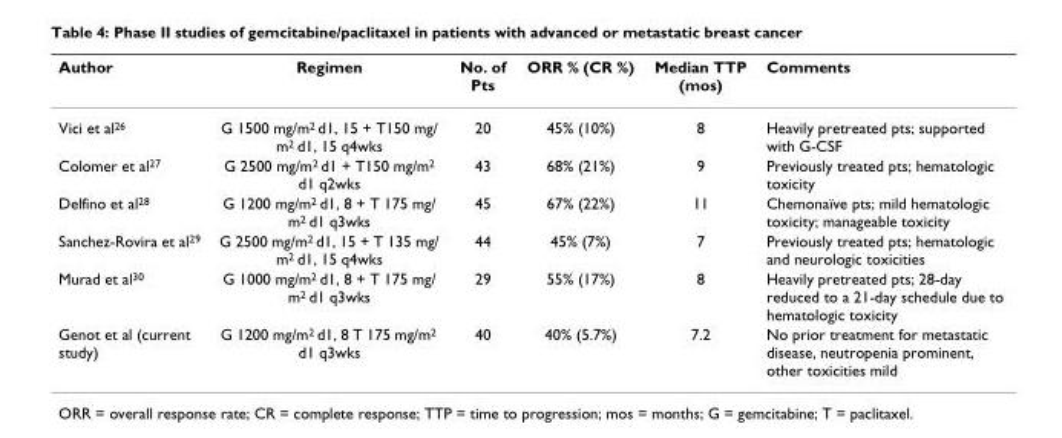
<table><thead><tr><td>Author</td><td>Regimen</td><td>No. of Pts</td><td>ORR % (CR %)</td><td>Median TTP (mos)</td><td>Comments</td></tr></thead><tbody><tr><td>Vici et al26</td><td>G 1500 mg/m2 d1, 15 + T150 mg/ m2 d1, 15 q4wks</td><td>20</td><td>45% (10%)</td><td>8</td><td>Heavily pretreated pts; supported with G-CSF</td></tr><tr><td>Colomer et al27</td><td>G 2500 mg/m2 d1 + T150 mg/m2 d1 q2wks</td><td>43</td><td>68% (21%)</td><td>9</td><td>Previously treated pts; hematologic toxicity</td></tr><tr><td>Delfino et al28</td><td>G 1200 mg/m2 d1, 8 + T 175 mg/ m2 d1 q3wks</td><td>45</td><td>67% (22%)</td><td>11</td><td>Chemonaïve pts; mild hematologic toxicity; manageable toxicity</td></tr><tr><td>Sanchez-Rovira et al29</td><td>G 2500 mg/m2 d1, 15 + T 135 mg/ m2 d1, 15 q4wks</td><td>44</td><td>45% (7%)</td><td>7</td><td>Previously treated pts; hematologic and neurologic toxicities</td></tr><tr><td>Murad et al30</td><td>G 1000 mg/m2 d1, 8 + T 175 mg/ m2 d1 q3wks</td><td>29</td><td>55% (17%)</td><td>8</td><td>Heavily pretreated pts; 28-day reduced to a 21-day schedule due to hematologic toxicity</td></tr><tr><td>Genot et al (current study)</td><td>G 1200 mg/m2 d1, 8 T 175 mg/m2 d1 q3wks</td><td>40</td><td>40% (5.7%)</td><td>7.2</td><td>No prior treatment for metastatic disease, neutropenia prominent, other toxicities mild</td></tr></tbody></table>